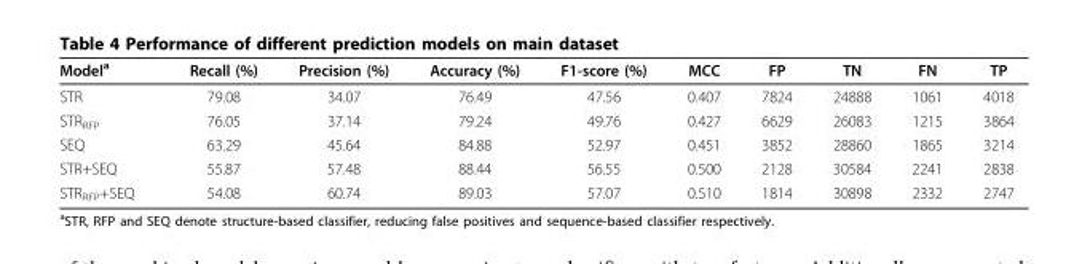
<table><thead><tr><td>Model<sup>a</sup></td><td>Recall (%)</td><td>Precision (%)</td><td>Accuracy (%)</td><td>F1-score (%)</td><td>MCC</td><td>FP</td><td>TN</td><td>FN</td><td>TP</td></tr></thead><tbody><tr><td>STR</td><td>79.08</td><td>34.07</td><td>76.49</td><td>47.56</td><td>0.407</td><td>7824</td><td>24888</td><td>1061</td><td>4018</td></tr><tr><td>STR<sub>RFP</sub></td><td>76.05</td><td>37.14</td><td>79.24</td><td>49.76</td><td>0.427</td><td>6629</td><td>26083</td><td>1215</td><td>3864</td></tr><tr><td>SEQ</td><td>63.29</td><td>45.64</td><td>84.88</td><td>52.97</td><td>0.451</td><td>3852</td><td>28860</td><td>1865</td><td>3214</td></tr><tr><td>STR+SEQ</td><td>55.87</td><td>57.48</td><td>88.44</td><td>56.55</td><td>0.500</td><td>2128</td><td>30584</td><td>2241</td><td>2838</td></tr><tr><td>STR<sub>RFP</sub>+SEQ</td><td>54.08</td><td>60.74</td><td>89.03</td><td>57.07</td><td>0.510</td><td>1814</td><td>30898</td><td>2332</td><td>2747</td></tr></tbody></table>